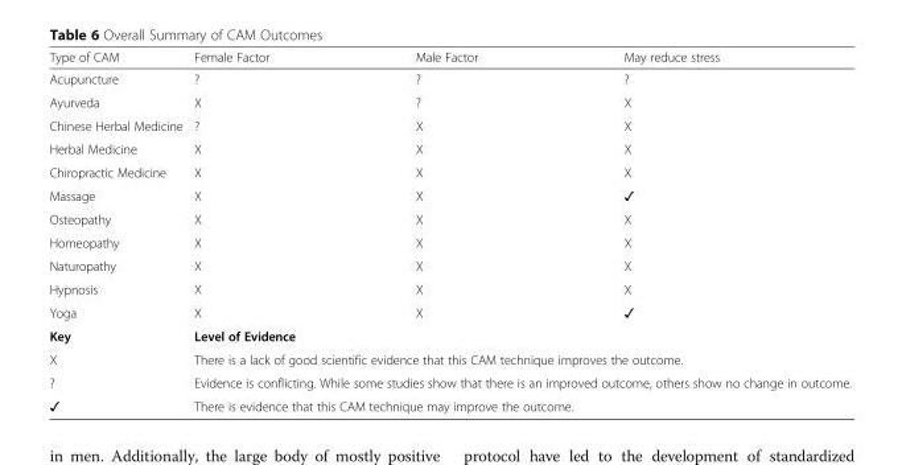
<table><thead><tr><td>Type of CAM</td><td>Female Factor</td><td>Male Factor</td><td>May reduce stress</td></tr></thead><tbody><tr><td>Acupuncture</td><td>?</td><td>?</td><td>?</td></tr><tr><td>Ayurveda</td><td>X</td><td>?</td><td>X</td></tr><tr><td>Chinese Herbal Medicine</td><td>?</td><td>X</td><td>X</td></tr><tr><td>Herbal Medicine</td><td>X</td><td>X</td><td>X</td></tr><tr><td>Chiropractic Medicine</td><td>X</td><td>X</td><td>X</td></tr><tr><td>Massage</td><td>X</td><td>X</td><td>✓</td></tr><tr><td>Osteopathy</td><td>X</td><td>X</td><td>X</td></tr><tr><td>Homeopathy</td><td>X</td><td>X</td><td>X</td></tr><tr><td>Naturopathy</td><td>X</td><td>X</td><td>X</td></tr><tr><td>Hypnosis</td><td>X</td><td>X</td><td>X</td></tr><tr><td>Yoga</td><td>X</td><td>X</td><td>✓</td></tr><tr><td>Key</td><td colspan="3">Level of Evidence</td></tr><tr><td>X</td><td colspan="3">There is a lack of good scientific evidence that this CAM technique improves the outcome.</td></tr><tr><td>?</td><td colspan="3">Evidence is conflicting. While some studies show that there is an improved outcome, others show no change in outcome.</td></tr><tr><td>✓</td><td colspan="3">There is evidence that this CAM technique may improve the outcome.</td></tr></tbody></table>